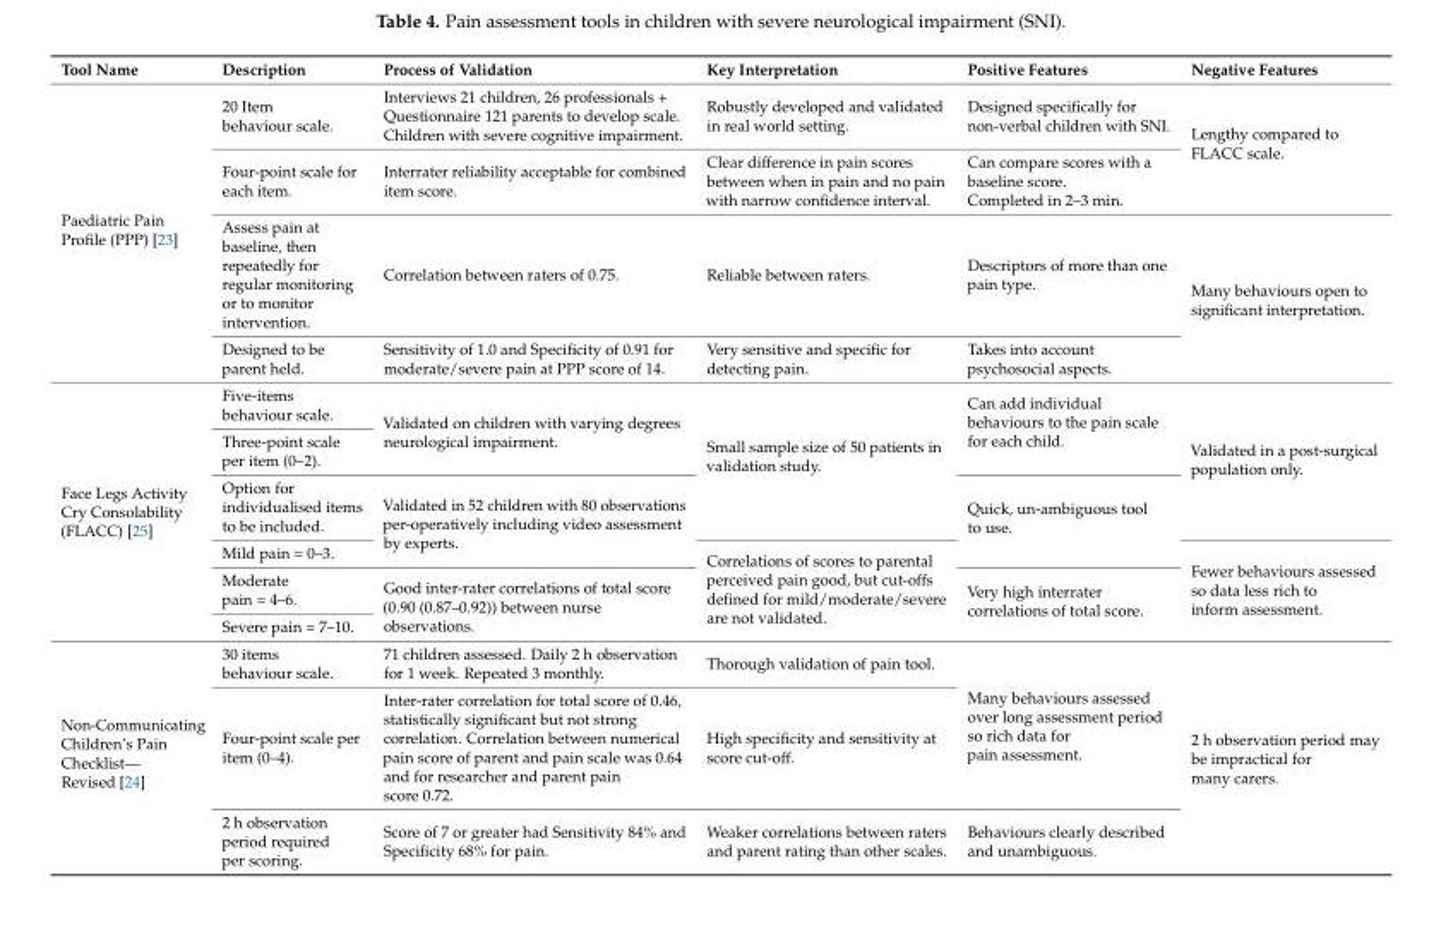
<table><thead><tr><td>Tool Name</td><td>Description</td><td>Process of Validation</td><td>Key Interpretation</td><td>Positive Features</td><td>Negative Features</td></tr></thead><tbody><tr><td rowspan="4">Paediatric Pain Profile (PPP) [23]</td><td>20 Item behaviour scale.</td><td>Interviews 21 children, 26 professionals + Questionnaire 121 parents to develop scale. Children with severe cognitive impairment.</td><td>Robustly developed and validated in real world setting.</td><td>Designed specifically for non-verbal children with SNI.</td><td rowspan="2">Lengthy compared to FLACC scale.</td></tr><tr><td>Four-point scale for each item.</td><td>Interrater reliability acceptable for combined item score.</td><td>Clear difference in pain scores between when in pain and no pain with narrow confidence interval.</td><td>Can compare scores with a baseline score. Completed in 2–3 min.</td></tr><tr><td>Assess pain at baseline, then repeatedly for regular monitoring or to monitor intervention.</td><td>Correlation between raters of 0.75.</td><td>Reliable between raters.</td><td>Descriptors of more than one pain type.</td><td rowspan="2">Many behaviours open to significant interpretation.</td></tr><tr><td>Designed to be parent held.</td><td>Sensitivity of 1.0 and Specificity of 0.91 for moderate/severe pain at PPP score of 14.</td><td>Very sensitive and specific for detecting pain.</td><td>Takes into account psychosocial aspects.</td></tr><tr><td rowspan="6">Face Legs Activity Cry Consolability (FLACC) [25]</td><td>Five-items behaviour scale.</td><td rowspan="2">Validated on children with varying degrees neurological impairment.</td><td rowspan="3">Small sample size of 50 patients in validation study.</td><td rowspan="2">Can add individual behaviours to the pain scale for each child.</td><td rowspan="3">Validated in a post-surgical population only.</td></tr><tr><td>Three-point scale per item (0–2).</td></tr><tr><td>Option for individualised items to be included.</td><td rowspan="2">Validated in 52 children with 80 observations per-operatively including video assessment by experts.</td><td rowspan="2">Quick, un-ambiguous tool to use.</td></tr><tr><td>Mild pain = 0–3.</td><td rowspan="3">Correlations of scores to parental perceived pain good, but cut-offs defined for mild/moderate/severe are not validated.</td><td rowspan="3">Fewer behaviours assessed so data less rich to inform assessment.</td></tr><tr><td>Moderate pain = 4–6.</td><td rowspan="2">Good inter-rater correlations of total score (0.90 (0.87–0.92)) between nurse observations.</td><td rowspan="2">Very high interrater correlations of total score.</td></tr><tr><td>Severe pain = 7–10.</td></tr><tr><td rowspan="3">Non-Communicating Children’s Pain Checklist— Revised [24]</td><td>30 items behaviour scale.</td><td>71 children assessed. Daily 2 h observation for 1 week. Repeated 3 monthly.</td><td>Thorough validation of pain tool.</td><td rowspan="2">Many behaviours assessed over long assessment period so rich data for pain assessment.</td><td rowspan="3">2 h observation period may be impractical for many carers.</td></tr><tr><td>Four-point scale per item (0–4).</td><td>Inter-rater correlation for total score of 0.46, statistically significant but not strong correlation. Correlation between numerical pain score of parent and pain scale was 0.64 and for researcher and parent pain score 0.72.</td><td>High specificity and sensitivity at score cut-off.</td></tr><tr><td>2 h observation period required per scoring.</td><td>Score of 7 or greater had Sensitivity 84% and Specificity 68% for pain.</td><td>Weaker correlations between raters and parent rating than other scales.</td><td>Behaviours clearly described and unambiguous.</td></tr></tbody></table>